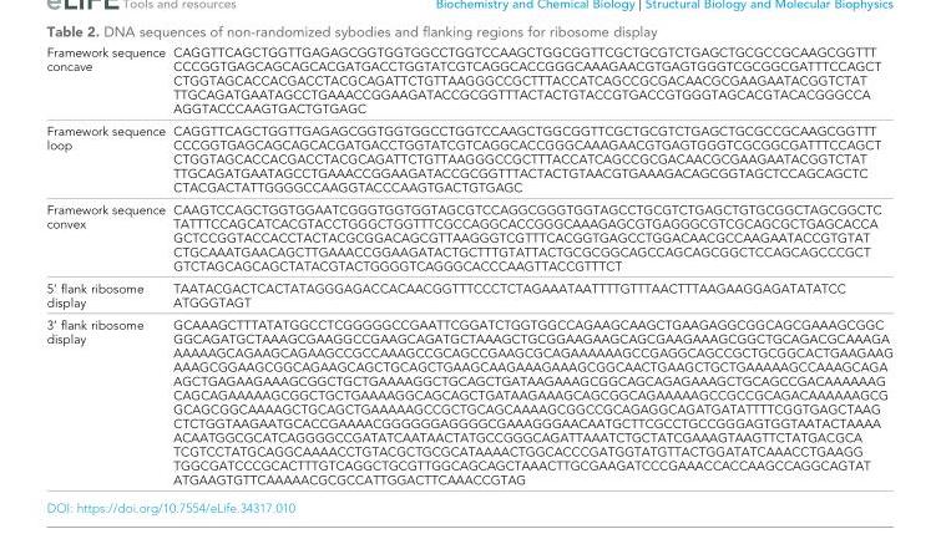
<table><tbody><tr><td>Framework sequence concave</td><td>CAGGTTCAGCTGGTTGAGAGCGGTGGTGGCCTGGTCCAAGCTGGCGGTTCGCTGCGTCTGAGCTGCGCCGCAAGCGGTTT CCCGGTGAGCAGCAGCACGATGACCTGGTATCGTCAGGCACCGGGCAAAGAACGTGAGTGGGTCGCGGCGATTTCCAGCT CTGGTAGCACCACGACCTACGCAGATTCTGTTAAGGGCCGCTTTACCATCAGCCGCGACAACGCGAAGAATACGGTCTAT TTGCAGATGAATAGCCTGAAACCGGAAGATACCGCGGTTTACTACTGTACCGTGACCGTGGGTAGCACGTACACGGGCCA AGGTACCCAAGTGACTGTGAGC</td></tr><tr><td>Framework sequence loop</td><td>CAGGTTCAGCTGGTTGAGAGCGGTGGTGGCCTGGTCCAAGCTGGCGGTTCGCTGCGTCTGAGCTGCGCCGCAAGCGGTTT CCCGGTGAGCAGCAGCACGATGACCTGGTATCGTCAGGCACCGGGCAAAGAACGTGAGTGGGTCGCGGCGATTTCCAGCT CTGGTAGCACCACGACCTACGCAGATTCTGTTAAGGGCCGCTTTACCATCAGCCGCGACAACGCGAAGAATACGGTCTAT TTGCAGATGAATAGCCTGAAACCGGAAGATACCGCGGTTTACTACTGTAACGTGAAAGACAGCGGTAGCTCCAGCAGCTC CTACGACTATTGGGGCCAAGGTACCCAAGTGACTGTGAGC</td></tr><tr><td>Framework sequence convex</td><td>CAAGTCCAGCTGGTGGAATCGGGTGGTGGTAGCGTCCAGGCGGGTGGTAGCCTGCGTCTGAGCTGTGCGGCTAGCGGCTC TATTTCCAGCATCACGTACCTGGGCTGGTTTCGCCAGGCACCGGGCAAAGAGCGTGAGGGCGTCGCAGCGCTGAGCACCA GCTCCGGTACCACCTACTACGCGGACAGCGTTAAGGGTCGTTTCACGGTGAGCCTGGACAACGCCAAGAATACCGTGTAT CTGCAAATGAACAGCTTGAAACCGGAAGATACTGCTTTGTATTACTGCGCGGCAGCCAGCAGCGGCTCCAGCAGCCCGCT GTCTAGCAGCAGCTATACGTACTGGGGTCAGGGCACCCAAGTTACCGTTTCT</td></tr><tr><td>5’ flank ribosome display</td><td>TAATACGACTCACTATAGGGAGACCACAACGGTTTCCCTCTAGAAATAATTTTGTTTAACTTTAAGAAGGAGATATATCC ATGGGTAGT</td></tr><tr><td>3’ flank ribosome display</td><td>GCAAAGCTTTATATGGCCTCGGGGGCCGAATTCGGATCTGGTGGCCAGAAGCAAGCTGAAGAGGCGGCAGCGAAAGCGGC GGCAGATGCTAAAGCGAAGGCCGAAGCAGATGCTAAAGCTGCGGAAGAAGCAGCGAAGAAAGCGGCTGCAGACGCAAAGA AAAAAGCAGAAGCAGAAGCCGCCAAAGCCGCAGCCGAAGCGCAGAAAAAAGCCGAGGCAGCCGCTGCGGCACTGAAGAAG AAAGCGGAAGCGGCAGAAGCAGCTGCAGCTGAAGCAAGAAAGAAAGCGGCAACTGAAGCTGCTGAAAAAGCCAAAGCAGA AGCTGAGAAGAAAGCGGCTGCTGAAAAGGCTGCAGCTGATAAGAAAGCGGCAGCAGAGAAAGCTGCAGCCGACAAAAAAG CAGCAGAAAAAGCGGCTGCTGAAAAGGCAGCAGCTGATAAGAAAGCAGCGGCAGAAAAAGCCGCCGCAGACAAAAAAGCG GCAGCGGCAAAAGCTGCAGCTGAAAAAGCCGCTGCAGCAAAAGCGGCCGCAGAGGCAGATGATATTTTCGGTGAGCTAAG CTCTGGTAAGAATGCACCGAAAACGGGGGGAGGGGCGAAAGGGAACAATGCTTCGCCTGCCGGGAGTGGTAATACTAAAA ACAATGGCGCATCAGGGGCCGATATCAATAACTATGCCGGGCAGATTAAATCTGCTATCGAAAGTAAGTTCTATGACGCA TCGTCCTATGCAGGCAAAACCTGTACGCTGCGCATAAAACTGGCACCCGATGGTATGTTACTGGATATCAAACCTGAAGG TGGCGATCCCGCACTTTGTCAGGCTGCGTTGGCAGCAGCTAAACTTGCGAAGATCCCGAAACCACCAAGCCAGGCAGTAT ATGAAGTGTTCAAAAACGCGCCATTGGACTTCAAACCGTAG</td></tr></tbody></table>